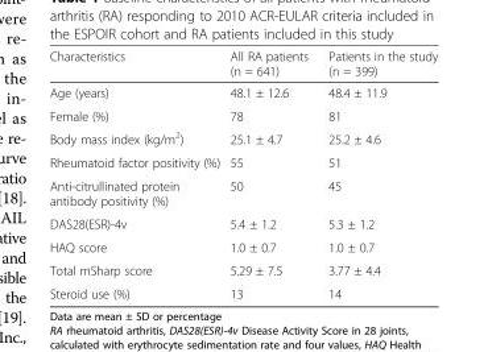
<table><thead><tr><td>Characteristics</td><td>All RA patients (n = 641)</td><td>Patients in the study (n = 399)</td></tr></thead><tbody><tr><td>Age (years)</td><td>48.1 ± 12.6</td><td>48.4 ± 11.9</td></tr><tr><td>Female (%)</td><td>78</td><td>81</td></tr><tr><td>Body mass index (kg/m<sup>2</sup>)</td><td>25.1 ± 4.7</td><td>25.2 ± 4.6</td></tr><tr><td>Rheumatoid factor positivity (%)</td><td>55</td><td>51</td></tr><tr><td>Anti-citrullinated protein antibody positivity (%)</td><td>50</td><td>45</td></tr><tr><td>DAS28(ESR)-4v</td><td>5.4 ± 1.2</td><td>5.3 ± 1.2</td></tr><tr><td>HAQ score</td><td>1.0 ± 0.7</td><td>1.0 ± 0.7</td></tr><tr><td>Total mSharp score</td><td>5.29 ± 7.5</td><td>3.77 ± 4.4</td></tr><tr><td>Steroid use (%)</td><td>13</td><td>14</td></tr></tbody></table>